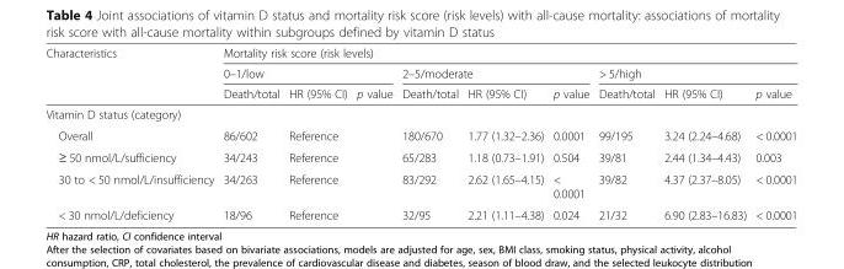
<table><thead><tr><td rowspan="3">Characteristics</td><td colspan="9">Mortality risk score (risk levels)</td></tr><tr><td colspan="3">0–1/low</td><td colspan="3">2–5/moderate</td><td colspan="3">&gt; 5/high</td></tr><tr><td>Death/total</td><td>HR (95% CI)</td><td>p value</td><td>Death/total</td><td>HR (95% CI)</td><td>p value</td><td>Death/total</td><td>HR (95% CI)</td><td>p value</td></tr></thead><tbody><tr><td colspan="10">Vitamin D status (category)</td></tr><tr><td>Overall</td><td>86/602</td><td>Reference</td><td></td><td>180/670</td><td>1.77 (1.32–2.36)</td><td>0.0001</td><td>99/195</td><td>3.24 (2.24–4.68)</td><td>&lt; 0.0001</td></tr><tr><td>≥ 50 nmol/L/sufficiency</td><td>34/243</td><td>Reference</td><td></td><td>65/283</td><td>1.18 (0.73–1.91)</td><td>0.504</td><td>39/81</td><td>2.44 (1.34–4.43)</td><td>0.003</td></tr><tr><td>30 to &lt; 50 nmol/L/insufficiency</td><td>34/263</td><td>Reference</td><td></td><td>83/292</td><td>2.62 (1.65–4.15)</td><td>&lt; 0.0001</td><td>39/82</td><td>4.37 (2.37–8.05)</td><td>&lt; 0.0001</td></tr><tr><td>&lt; 30 nmol/L/deficiency</td><td>18/96</td><td>Reference</td><td></td><td>32/95</td><td>2.21 (1.11–4.38)</td><td>0.024</td><td>21/32</td><td>6.90 (2.83–16.83)</td><td>&lt; 0.0001</td></tr></tbody></table>